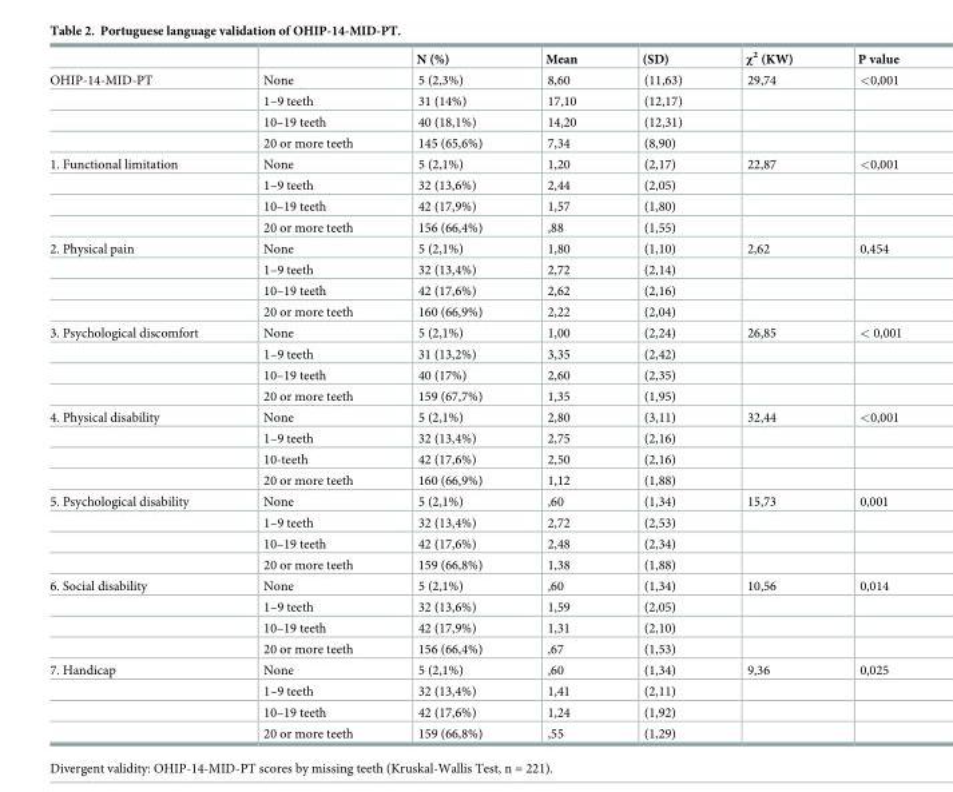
<table><thead><tr><td></td><td></td><td>N (%)</td><td>Mean</td><td>(SD)</td><td>χ<sup>2</sup> (KW)</td><td>P value</td></tr></thead><tbody><tr><td rowspan="4">OHIP-14-MID-PT</td><td>None</td><td>5 (2,3%)</td><td>8,60</td><td>(11,63)</td><td>29,74</td><td>&lt;0,001</td></tr><tr><td>1–9 teeth</td><td>31 (14%)</td><td>17,10</td><td>(12,17)</td><td></td><td></td></tr><tr><td>10–19 teeth</td><td>40 (18,1%)</td><td>14,20</td><td>(12,31)</td><td></td><td></td></tr><tr><td>20 or more teeth</td><td>145 (65,6%)</td><td>7,34</td><td>(8,90)</td><td></td><td></td></tr><tr><td rowspan="4">1. Functional limitation</td><td>None</td><td>5 (2,1%)</td><td>1,20</td><td>(2,17)</td><td>22,87</td><td>&lt;0,001</td></tr><tr><td>1–9 teeth</td><td>32 (13,6%)</td><td>2,44</td><td>(2,05)</td><td></td><td></td></tr><tr><td>10–19 teeth</td><td>42 (17,9%)</td><td>1,57</td><td>(1,80)</td><td></td><td></td></tr><tr><td>20 or more teeth</td><td>156 (66,4%)</td><td>,88</td><td>(1,55)</td><td></td><td></td></tr><tr><td rowspan="4">2. Physical pain</td><td>None</td><td>5 (2,1%)</td><td>1,80</td><td>(1,10)</td><td>2,62</td><td>0,454</td></tr><tr><td>1–9 teeth</td><td>32 (13,4%)</td><td>2,72</td><td>(2,14)</td><td></td><td></td></tr><tr><td>10–19 teeth</td><td>42 (17,6%)</td><td>2,62</td><td>(2,16)</td><td></td><td></td></tr><tr><td>20 or more teeth</td><td>160 (66,9%)</td><td>2,22</td><td>(2,04)</td><td></td><td></td></tr><tr><td rowspan="4">3. Psychological discomfort</td><td>None</td><td>5 (2,1%)</td><td>1,00</td><td>(2,24)</td><td>26,85</td><td>&lt; 0,001</td></tr><tr><td>1–9 teeth</td><td>31 (13,2%)</td><td>3,35</td><td>(2,42)</td><td></td><td></td></tr><tr><td>10–19 teeth</td><td>40 (17%)</td><td>2,60</td><td>(2,35)</td><td></td><td></td></tr><tr><td>20 or more teeth</td><td>159 (67,7%)</td><td>1,35</td><td>(1,95)</td><td></td><td></td></tr><tr><td rowspan="4">4. Physical disability</td><td>None</td><td>5 (2,1%)</td><td>2,80</td><td>(3,11)</td><td>32,44</td><td>&lt;0,001</td></tr><tr><td>1–9 teeth</td><td>32 (13,4%)</td><td>2,75</td><td>(2,16)</td><td></td><td></td></tr><tr><td>10-teeth</td><td>42 (17,6%)</td><td>2,50</td><td>(2,16)</td><td></td><td></td></tr><tr><td>20 or more teeth</td><td>160 (66,9%)</td><td>1,12</td><td>(1,88)</td><td></td><td></td></tr><tr><td rowspan="4">5. Psychological disability</td><td>None</td><td>5 (2,1%)</td><td>,60</td><td>(1,34)</td><td>15,73</td><td>0,001</td></tr><tr><td>1–9 teeth</td><td>32 (13,4%)</td><td>2,72</td><td>(2,53)</td><td></td><td></td></tr><tr><td>10–19 teeth</td><td>42 (17,6%)</td><td>2,48</td><td>(2,34)</td><td></td><td></td></tr><tr><td>20 or more teeth</td><td>159 (66,8%)</td><td>1,38</td><td>(1,88)</td><td></td><td></td></tr><tr><td rowspan="4">6. Social disability</td><td>None</td><td>5 (2,1%)</td><td>,60</td><td>(1,34)</td><td>10,56</td><td>0,014</td></tr><tr><td>1–9 teeth</td><td>32 (13,6%)</td><td>1,59</td><td>(2,05)</td><td></td><td></td></tr><tr><td>10–19 teeth</td><td>42 (17,9%)</td><td>1,31</td><td>(2,10)</td><td></td><td></td></tr><tr><td>20 or more teeth</td><td>156 (66,4%)</td><td>,67</td><td>(1,53)</td><td></td><td></td></tr><tr><td rowspan="4">7. Handicap</td><td>None</td><td>5 (2,1%)</td><td>,60</td><td>(1,34)</td><td>9,36</td><td>0,025</td></tr><tr><td>1–9 teeth</td><td>32 (13,4%)</td><td>1,41</td><td>(2,11)</td><td></td><td></td></tr><tr><td>10–19 teeth</td><td>42 (17,6%)</td><td>1,24</td><td>(1,92)</td><td></td><td></td></tr><tr><td>20 or more teeth</td><td>159 (66,8%)</td><td>,55</td><td>(1,29)</td><td></td><td></td></tr></tbody></table>